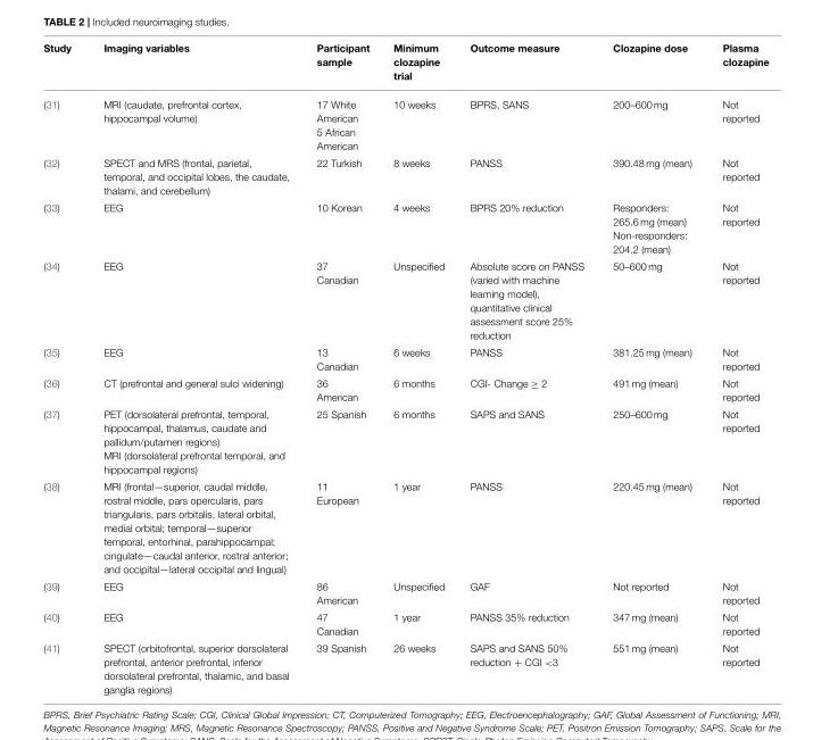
<table><thead><tr><td>Study</td><td>Imaging variables</td><td>Participant sample</td><td>Minimum clozapine trial</td><td>Outcome measure</td><td>Clozapine dose</td><td>Plasma clozapine</td></tr></thead><tbody><tr><td>(31)</td><td>MRI (caudate, prefrontal cortex, hippocampal volume)</td><td>17 White American 5 African American</td><td>10 weeks</td><td>BPRS, SANS</td><td>200–600 mg</td><td>Not reported</td></tr><tr><td>(32)</td><td>SPECT and MRS (frontal, parietal, temporal, and occipital lobes, the caudate, thalami, and cerebellum)</td><td>22 Turkish</td><td>8 weeks</td><td>PANSS</td><td>390.48 mg (mean)</td><td>Not reported</td></tr><tr><td>(33)</td><td>EEG</td><td>10 Korean</td><td>4 weeks</td><td>BPRS 20% reduction</td><td>Responders: 265.6 mg (mean) Non-responders: 204.2 (mean)</td><td>Not reported</td></tr><tr><td>(34)</td><td>EEG</td><td>37 Canadian</td><td>Unspecified</td><td>Absolute score on PANSS (varied with machine learning model), quantitative clinical assessment score 25% reduction</td><td>50–600 mg</td><td>Not reported</td></tr><tr><td>(35)</td><td>EEG</td><td>13 Canadian</td><td>6 weeks</td><td>PANSS</td><td>381.25 mg (mean)</td><td>Not reported</td></tr><tr><td>(36)</td><td>CT (prefrontal and general sulci widening)</td><td>36 American</td><td>6 months</td><td>CGI- Change ≥ 2</td><td>491 mg (mean)</td><td>Not reported</td></tr><tr><td>(37)</td><td>PET (dorsolateral prefrontal, temporal, hippocampal, thalamus, caudate and pallidum/putamen regions) MRI (dorsolateral prefrontal temporal, and hippocampal regions)</td><td>25 Spanish</td><td>6 months</td><td>SAPS and SANS</td><td>250–600 mg</td><td>Not reported</td></tr><tr><td>(38)</td><td>MRI (frontal—superior, caudal middle, rostral middle, pars opercularis, pars triangularis, pars orbitalis, lateral orbital, medial orbital; temporal—superior temporal, entorhinal, parahippocampal; cingulate—caudal anterior, rostral anterior; and occipital—lateral occipital and lingual)</td><td>11 European</td><td>1 year</td><td>PANSS</td><td>220.45 mg (mean)</td><td>Not reported</td></tr><tr><td>(39)</td><td>EEG</td><td>86 American</td><td>Unspecified</td><td>GAF</td><td>Not reported</td><td>Not reported</td></tr><tr><td>(40)</td><td>EEG</td><td>47 Canadian</td><td>1 year</td><td>PANSS 35% reduction</td><td>347 mg (mean)</td><td>Not reported</td></tr><tr><td>(41)</td><td>SPECT (orbitofrontal, superior dorsolateral prefrontal, anterior prefrontal, inferior dorsolateral prefrontal, thalamic, and basal ganglia regions)</td><td>39 Spanish</td><td>26 weeks</td><td>SAPS and SANS 50% reduction + CGI &lt;3</td><td>551 mg (mean)</td><td>Not reported</td></tr></tbody></table>